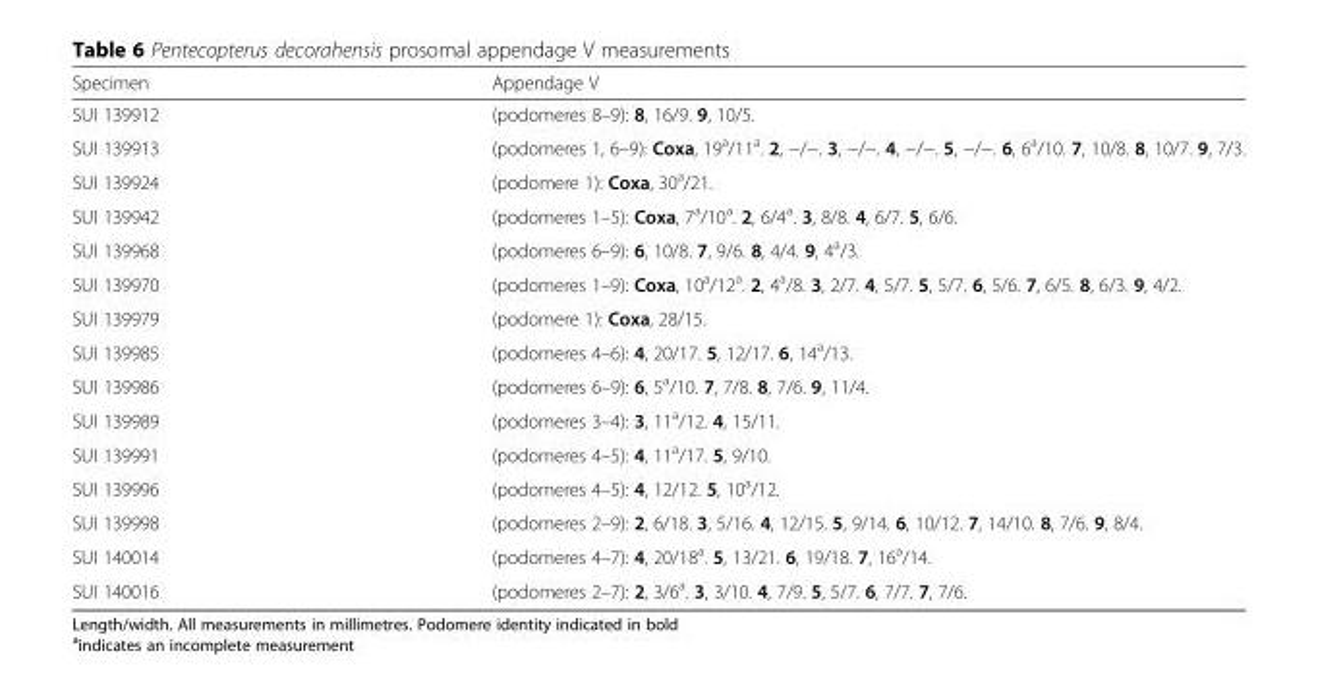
<table><thead><tr><td>Specimen</td><td>Appendage V</td></tr></thead><tbody><tr><td>SUI 139912</td><td>(podomeres 8–9): 8, 16/9. 9, 10/5.</td></tr><tr><td>SUI 139913</td><td>(podomeres 1, 6–9): Coxa, 19<sup>a</sup>/11<sup>a</sup>. 2, −/−. 3, −/−. 4, −/−. 5, −/−. 6, 6<sup>a</sup>/10. 7, 10/8. 8, 10/7. 9, 7/3.</td></tr><tr><td>SUI 139924</td><td>(podomere 1): Coxa, 30<sup>a</sup>/21.</td></tr><tr><td>SUI 139942</td><td>(podomeres 1–5): Coxa, 7<sup>a</sup>/10<sup>a</sup>. 2, 6/4<sup>a</sup>. 3, 8/8. 4, 6/7. 5, 6/6.</td></tr><tr><td>SUI 139968</td><td>(podomeres 6–9): 6, 10/8. 7, 9/6. 8, 4/4. 9, 4<sup>a</sup>/3.</td></tr><tr><td>SUI 139970</td><td>(podomeres 1–9): Coxa, 10<sup>a</sup>/12<sup>a</sup>. 2, 4<sup>a</sup>/8. 3, 2/7. 4, 5/7. 5, 5/7. 6, 5/6. 7, 6/5. 8, 6/3. 9, 4/2.</td></tr><tr><td>SUI 139979</td><td>(podomere 1): Coxa, 28/15.</td></tr><tr><td>SUI 139985</td><td>(podomeres 4–6): 4, 20/17. 5, 12/17. 6, 14<sup>a</sup>/13.</td></tr><tr><td>SUI 139986</td><td>(podomeres 6–9): 6, 5<sup>a</sup>/10. 7, 7/8. 8, 7/6. 9, 11/4.</td></tr><tr><td>SUI 139989</td><td>(podomeres 3–4): 3, 11<sup>a</sup>/12. 4, 15/11.</td></tr><tr><td>SUI 139991</td><td>(podomeres 4–5): 4, 11<sup>a</sup>/17. 5, 9/10.</td></tr><tr><td>SUI 139996</td><td>(podomeres 4–5): 4, 12/12. 5, 10<sup>a</sup>/12.</td></tr><tr><td>SUI 139998</td><td>(podomeres 2–9): 2, 6/18. 3, 5/16. 4, 12/15. 5, 9/14. 6, 10/12. 7, 14/10. 8, 7/6. 9, 8/4.</td></tr><tr><td>SUI 140014</td><td>(podomeres 4–7): 4, 20/18<sup>a</sup>. 5, 13/21. 6, 19/18. 7, 16<sup>a</sup>/14.</td></tr><tr><td>SUI 140016</td><td>(podomeres 2–7): 2, 3/6<sup>a</sup>. 3, 3/10. 4, 7/9. 5, 5/7. 6, 7/7. 7, 7/6.</td></tr></tbody></table>